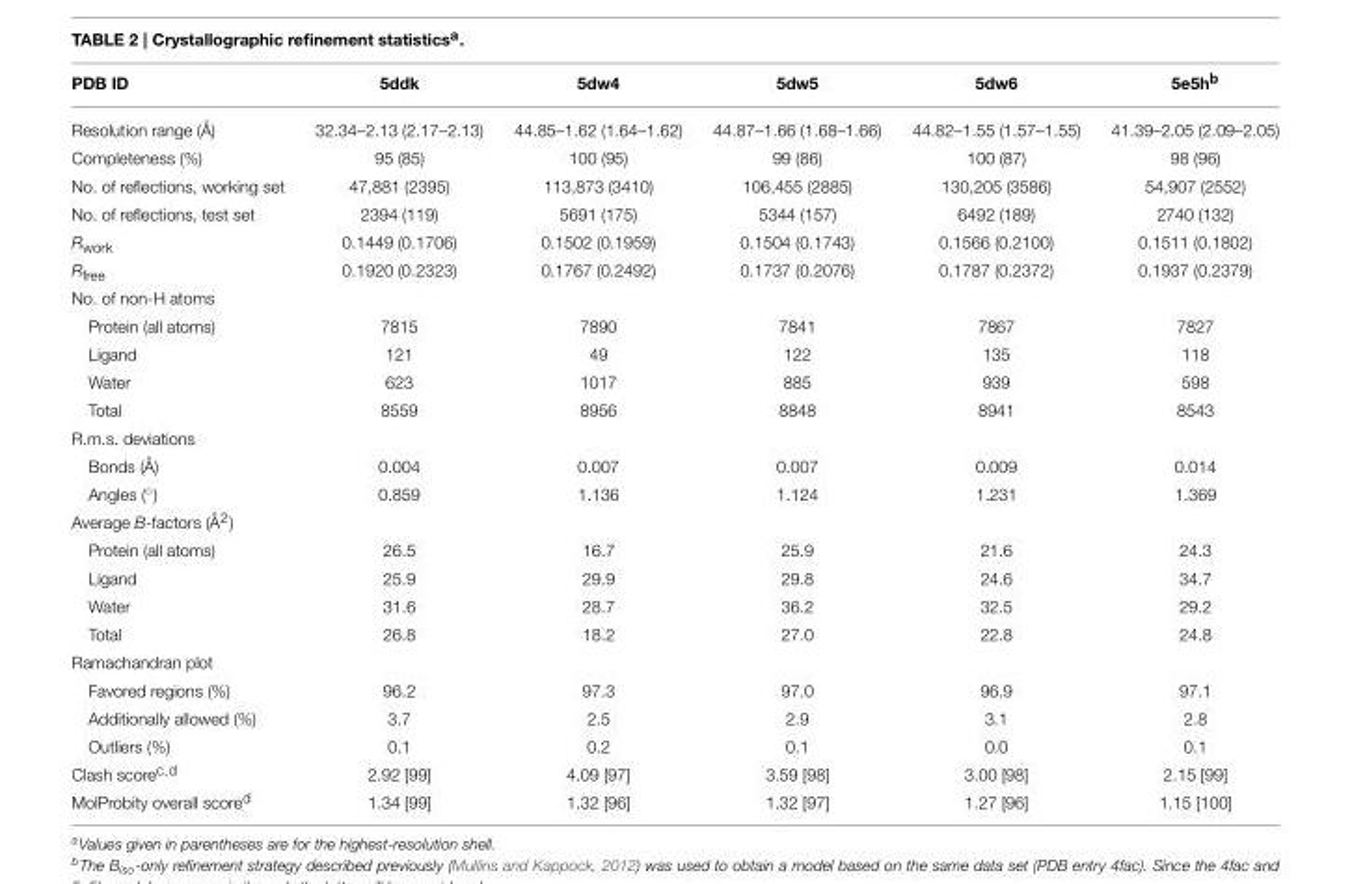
<table><thead><tr><td>PDB ID</td><td>5ddk</td><td>5dw4</td><td>5dw5</td><td>5dw6</td><td>5e5h<sup>b</sup></td></tr></thead><tbody><tr><td>Resolution range (Å)</td><td>32.34–2.13 (2.17–2.13)</td><td>44.85–1.62 (1.64–1.62)</td><td>44.87–1.66 (1.68–1.66)</td><td>44.82–1.55 (1.57–1.55)</td><td>41.39–2.05 (2.09–2.05)</td></tr><tr><td>Completeness (%)</td><td>95 (85)</td><td>100 (95)</td><td>99 (86)</td><td>100 (87)</td><td>98 (96)</td></tr><tr><td>No. of reflections, working set</td><td>47,881 (2395)</td><td>113,873 (3410)</td><td>106,455 (2885)</td><td>130,205 (3586)</td><td>54,907 (2552)</td></tr><tr><td>No. of reflections, test set</td><td>2394 (119)</td><td>5691 (175)</td><td>5344 (157)</td><td>6492 (189)</td><td>2740 (132)</td></tr><tr><td>R<sub>work</sub></td><td>0.1449 (0.1706)</td><td>0.1502 (0.1959)</td><td>0.1504 (0.1743)</td><td>0.1566 (0.2100)</td><td>0.1511 (0.1802)</td></tr><tr><td>R<sub>free</sub></td><td>0.1920 (0.2323)</td><td>0.1767 (0.2492)</td><td>0.1737 (0.2076)</td><td>0.1787 (0.2372)</td><td>0.1937 (0.2379)</td></tr><tr><td colspan="6">No. of non-H atoms</td></tr><tr><td>Protein (all atoms)</td><td>7815</td><td>7890</td><td>7841</td><td>7867</td><td>7827</td></tr><tr><td>Ligand</td><td>121</td><td>49</td><td>122</td><td>135</td><td>118</td></tr><tr><td>Water</td><td>623</td><td>1017</td><td>885</td><td>939</td><td>598</td></tr><tr><td>Total</td><td>8559</td><td>8956</td><td>8848</td><td>8941</td><td>8543</td></tr><tr><td colspan="6">R.m.s. deviations</td></tr><tr><td>Bonds (Å)</td><td>0.004</td><td>0.007</td><td>0.007</td><td>0.009</td><td>0.014</td></tr><tr><td>Angles (◦)</td><td>0.859</td><td>1.136</td><td>1.124</td><td>1.231</td><td>1.369</td></tr><tr><td colspan="6">Average B-factors (Å<sup>2</sup>)</td></tr><tr><td>Protein (all atoms)</td><td>26.5</td><td>16.7</td><td>25.9</td><td>21.6</td><td>24.3</td></tr><tr><td>Ligand</td><td>25.9</td><td>29.9</td><td>29.8</td><td>24.6</td><td>34.7</td></tr><tr><td>Water</td><td>31.6</td><td>28.7</td><td>36.2</td><td>32.5</td><td>29.2</td></tr><tr><td>Total</td><td>26.8</td><td>18.2</td><td>27.0</td><td>22.8</td><td>24.8</td></tr><tr><td colspan="6">Ramachandran plot</td></tr><tr><td>Favored regions (%)</td><td>96.2</td><td>97.3</td><td>97.0</td><td>96.9</td><td>97.1</td></tr><tr><td>Additionally allowed (%)</td><td>3.7</td><td>2.5</td><td>2.9</td><td>3.1</td><td>2.8</td></tr><tr><td>Outliers (%)</td><td>0.1</td><td>0.2</td><td>0.1</td><td>0.0</td><td>0.1</td></tr><tr><td>Clash score<sup>c,d</sup></td><td>2.92 [99]</td><td>4.09 [97]</td><td>3.59 [98]</td><td>3.00 [98]</td><td>2.15 [99]</td></tr><tr><td>MolProbity overall score<sup>d</sup></td><td>1.34 [99]</td><td>1.32 [96]</td><td>1.32 [97]</td><td>1.27 [96]</td><td>1.15 [100]</td></tr></tbody></table>